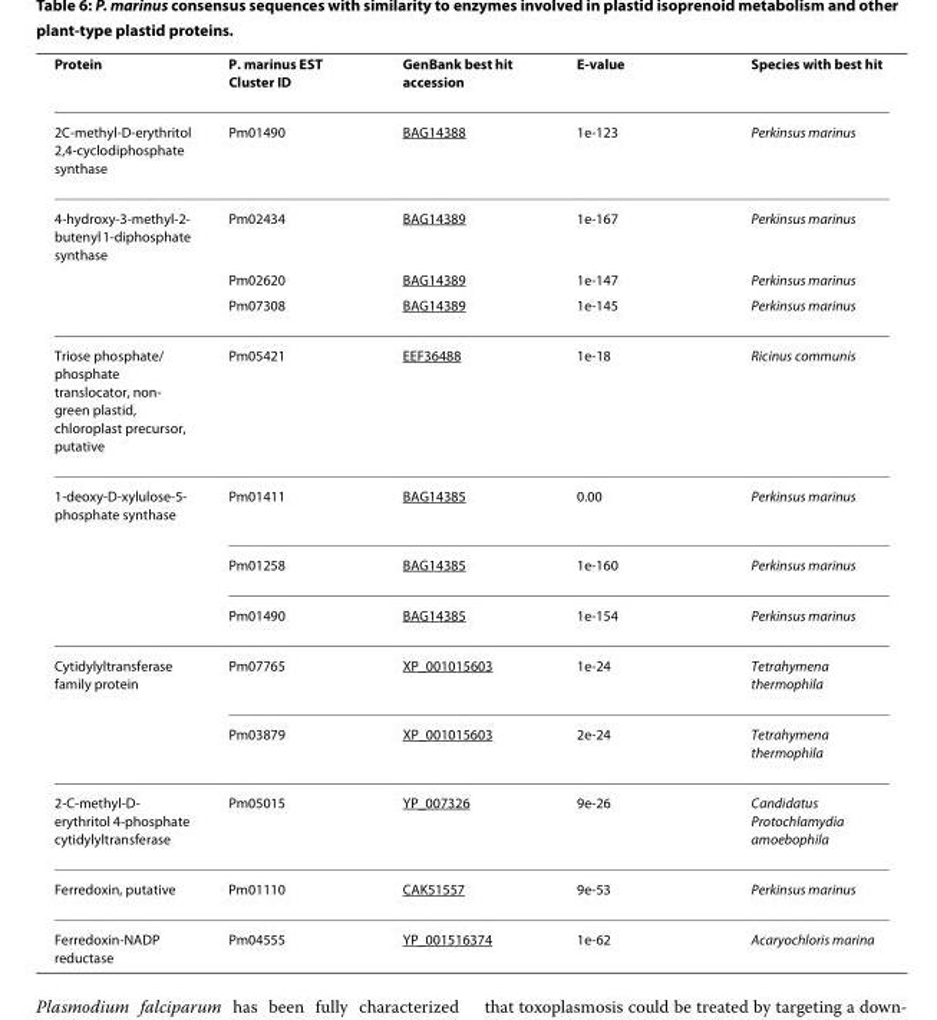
<table><thead><tr><td>Protein</td><td>P. marinus EST Cluster ID</td><td>GenBank best hit accession</td><td>E-value</td><td>Species with best hit</td></tr></thead><tbody><tr><td>2C-methyl-D-erythritol 2,4-cyclodiphosphate synthase</td><td>Pm01490</td><td>BAG14388</td><td>1e-123</td><td>Perkinsus marinus</td></tr><tr><td rowspan="3">4-hydroxy-3-methyl-2- butenyl 1-diphosphate synthase</td><td>Pm02434</td><td>BAG14389</td><td>1e-167</td><td>Perkinsus marinus</td></tr><tr><td>Pm02620</td><td>BAG14389</td><td>1e-147</td><td>Perkinsus marinus</td></tr><tr><td>Pm07308</td><td>BAG14389</td><td>1e-145</td><td>Perkinsus marinus</td></tr><tr><td>Triose phosphate/ phosphate translocator, non- green plastid, chloroplast precursor, putative</td><td>Pm05421</td><td>EEF36488</td><td>1e-18</td><td>Ricinus communis</td></tr><tr><td rowspan="3">1-deoxy-D-xylulose-5- phosphate synthase</td><td>Pm01411</td><td>BAG14385</td><td>0.00</td><td>Perkinsus marinus</td></tr><tr><td>Pm01258</td><td>BAG14385</td><td>1e-160</td><td>Perkinsus marinus</td></tr><tr><td>Pm01490</td><td>BAG14385</td><td>1e-154</td><td>Perkinsus marinus</td></tr><tr><td rowspan="2">Cytidylyltransferase family protein</td><td>Pm07765</td><td>XP_001015603</td><td>1e-24</td><td>Tetrahymena thermophila</td></tr><tr><td>Pm03879</td><td>XP_001015603</td><td>2e-24</td><td>Tetrahymena thermophila</td></tr><tr><td>2-C-methyl-D- erythritol 4-phosphate cytidylyltransferase</td><td>Pm05015</td><td>YP_007326</td><td>9e-26</td><td>Candidatus Protochlamydia amoebophila</td></tr><tr><td>Ferredoxin, putative</td><td>Pm01110</td><td>CAK51557</td><td>9e-53</td><td>Perkinsus marinus</td></tr><tr><td>Ferredoxin-NADP reductase</td><td>Pm04555</td><td>YP_001516374</td><td>1e-62</td><td>Acaryochloris marina</td></tr></tbody></table>